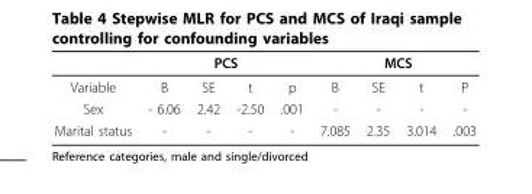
<table><thead><tr><td rowspan="2">Variable</td><td colspan="4">PCS</td><td colspan="4">MCS</td></tr><tr><td>B</td><td>SE</td><td>t</td><td>p</td><td>B</td><td>SE</td><td>t</td><td>P</td></tr></thead><tbody><tr><td>Sex</td><td>- 6.06</td><td>2.42</td><td>-2.50</td><td>.001</td><td>-</td><td>-</td><td>-</td><td>-</td></tr><tr><td>Marital status</td><td>-</td><td>-</td><td>-</td><td>-</td><td>7.085</td><td>2.35</td><td>3.014</td><td>.003</td></tr></tbody></table>